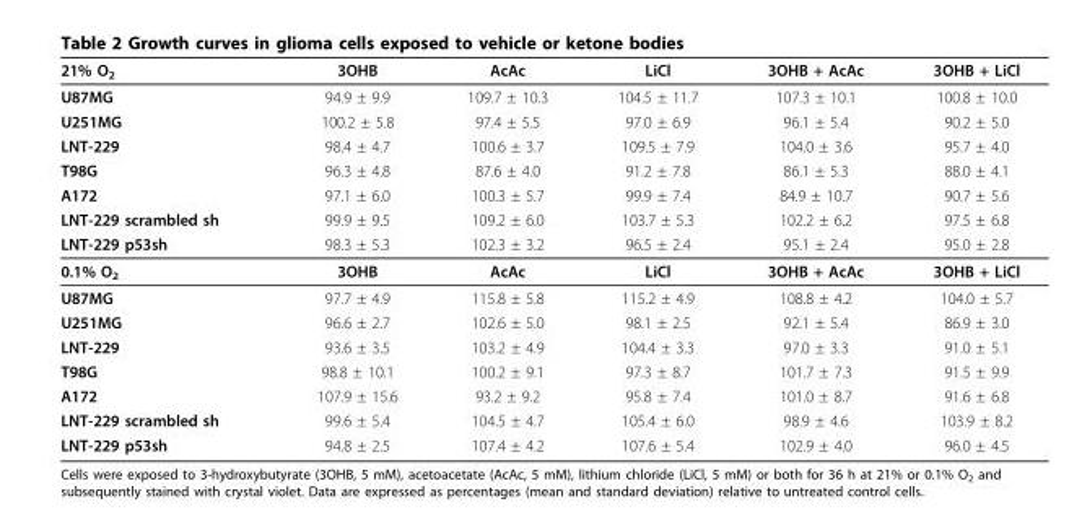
<table><thead><tr><td>21% O<sub>2</sub></td><td>3OHB</td><td>AcAc</td><td>LiCl</td><td>3OHB + AcAc</td><td>3OHB + LiCl</td></tr></thead><tbody><tr><td>U87MG</td><td>94.9 ± 9.9</td><td>109.7 ± 10.3</td><td>104.5 ± 11.7</td><td>107.3 ± 10.1</td><td>100.8 ± 10.0</td></tr><tr><td>U251MG</td><td>100.2 ± 5.8</td><td>97.4 ± 5.5</td><td>97.0 ± 6.9</td><td>96.1 ± 5.4</td><td>90.2 ± 5.0</td></tr><tr><td>LNT-229</td><td>98.4 ± 4.7</td><td>100.6 ± 3.7</td><td>109.5 ± 7.9</td><td>104.0 ± 3.6</td><td>95.7 ± 4.0</td></tr><tr><td>T98G</td><td>96.3 ± 4.8</td><td>87.6 ± 4.0</td><td>91.2 ± 7.8</td><td>86.1 ± 5.3</td><td>88.0 ± 4.1</td></tr><tr><td>A172</td><td>97.1 ± 6.0</td><td>100.3 ± 5.7</td><td>99.9 ± 7.4</td><td>84.9 ± 10.7</td><td>90.7 ± 5.6</td></tr><tr><td>LNT-229 scrambled sh</td><td>99.9 ± 9.5</td><td>109.2 ± 6.0</td><td>103.7 ± 5.3</td><td>102.2 ± 6.2</td><td>97.5 ± 6.8</td></tr><tr><td>LNT-229 p53sh</td><td>98.3 ± 5.3</td><td>102.3 ± 3.2</td><td>96.5 ± 2.4</td><td>95.1 ± 2.4</td><td>95.0 ± 2.8</td></tr><tr><td>0.1% O<sub>2</sub></td><td>3OHB</td><td>AcAc</td><td>LiCl</td><td>3OHB + AcAc</td><td>3OHB + LiCl</td></tr><tr><td>U87MG</td><td>97.7 ± 4.9</td><td>115.8 ± 5.8</td><td>115.2 ± 4.9</td><td>108.8 ± 4.2</td><td>104.0 ± 5.7</td></tr><tr><td>U251MG</td><td>96.6 ± 2.7</td><td>102.6 ± 5.0</td><td>98.1 ± 2.5</td><td>92.1 ± 5.4</td><td>86.9 ± 3.0</td></tr><tr><td>LNT-229</td><td>93.6 ± 3.5</td><td>103.2 ± 4.9</td><td>104.4 ± 3.3</td><td>97.0 ± 3.3</td><td>91.0 ± 5.1</td></tr><tr><td>T98G</td><td>98.8 ± 10.1</td><td>100.2 ± 9.1</td><td>97.3 ± 8.7</td><td>101.7 ± 7.3</td><td>91.5 ± 9.9</td></tr><tr><td>A172</td><td>107.9 ± 15.6</td><td>93.2 ± 9.2</td><td>95.8 ± 7.4</td><td>101.0 ± 8.7</td><td>91.6 ± 6.8</td></tr><tr><td>LNT-229 scrambled sh</td><td>99.6 ± 5.4</td><td>104.5 ± 4.7</td><td>105.4 ± 6.0</td><td>98.9 ± 4.6</td><td>103.9 ± 8.2</td></tr><tr><td>LNT-229 p53sh</td><td>94.8 ± 2.5</td><td>107.4 ± 4.2</td><td>107.6 ± 5.4</td><td>102.9 ± 4.0</td><td>96.0 ± 4.5</td></tr></tbody></table>